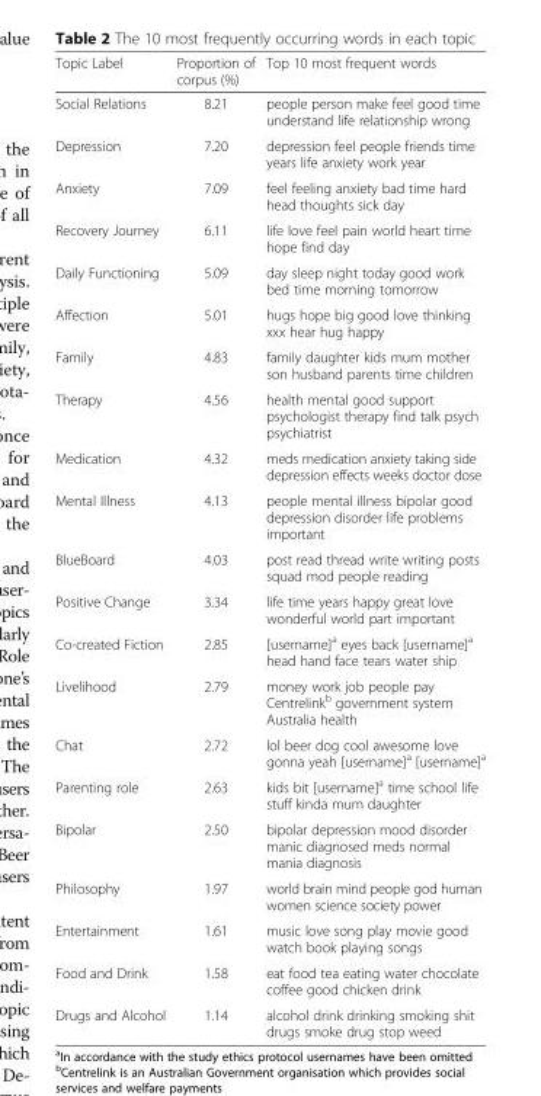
<table><thead><tr><td>Topic Label</td><td>Proportion of corpus (%)</td><td>Top 10 most frequent words</td></tr></thead><tbody><tr><td>Social Relations</td><td>8.21</td><td>people person make feel good time understand life relationship wrong</td></tr><tr><td>Depression</td><td>7.20</td><td>depression feel people friends time years life anxiety work year</td></tr><tr><td>Anxiety</td><td>7.09</td><td>feel feeling anxiety bad time hard head thoughts sick day</td></tr><tr><td>Recovery Journey</td><td>6.11</td><td>life love feel pain world heart time hope find day</td></tr><tr><td>Daily Functioning</td><td>5.09</td><td>day sleep night today good work bed time morning tomorrow</td></tr><tr><td>Affection</td><td>5.01</td><td>hugs hope big good love thinking xxx hear hug happy</td></tr><tr><td>Family</td><td>4.83</td><td>family daughter kids mum mother son husband parents time children</td></tr><tr><td>Therapy</td><td>4.56</td><td>health mental good support psychologist therapy find talk psych psychiatrist</td></tr><tr><td>Medication</td><td>4.32</td><td>meds medication anxiety taking side depression effects weeks doctor dose</td></tr><tr><td>Mental Illness</td><td>4.13</td><td>people mental illness bipolar good depression disorder life problems important</td></tr><tr><td>BlueBoard</td><td>4.03</td><td>post read thread write writing posts squad mod people reading</td></tr><tr><td>Positive Change</td><td>3.34</td><td>life time years happy great love wonderful world part important</td></tr><tr><td>Co-created Fiction</td><td>2.85</td><td>[username]<sup>a</sup> eyes back [username]<sup>a</sup> head hand face tears water ship</td></tr><tr><td>Livelihood</td><td>2.79</td><td>money work job people pay Centrelink<sup>b</sup> government system Australia health</td></tr><tr><td>Chat</td><td>2.72</td><td>lol beer dog cool awesome love gonna yeah [username]<sup>a</sup> [username]<sup>a</sup></td></tr><tr><td>Parenting role</td><td>2.63</td><td>kids bit [username]<sup>a</sup> time school life stuff kinda mum daughter</td></tr><tr><td>Bipolar</td><td>2.50</td><td>bipolar depression mood disorder manic diagnosed meds normal mania diagnosis</td></tr><tr><td>Philosophy</td><td>1.97</td><td>world brain mind people god human women science society power</td></tr><tr><td>Entertainment</td><td>1.61</td><td>music love song play movie good watch book playing songs</td></tr><tr><td>Food and Drink</td><td>1.58</td><td>eat food tea eating water chocolate coffee good chicken drink</td></tr><tr><td>Drugs and Alcohol</td><td>1.14</td><td>alcohol drink drinking smoking shit drugs smoke drug stop weed</td></tr></tbody></table>